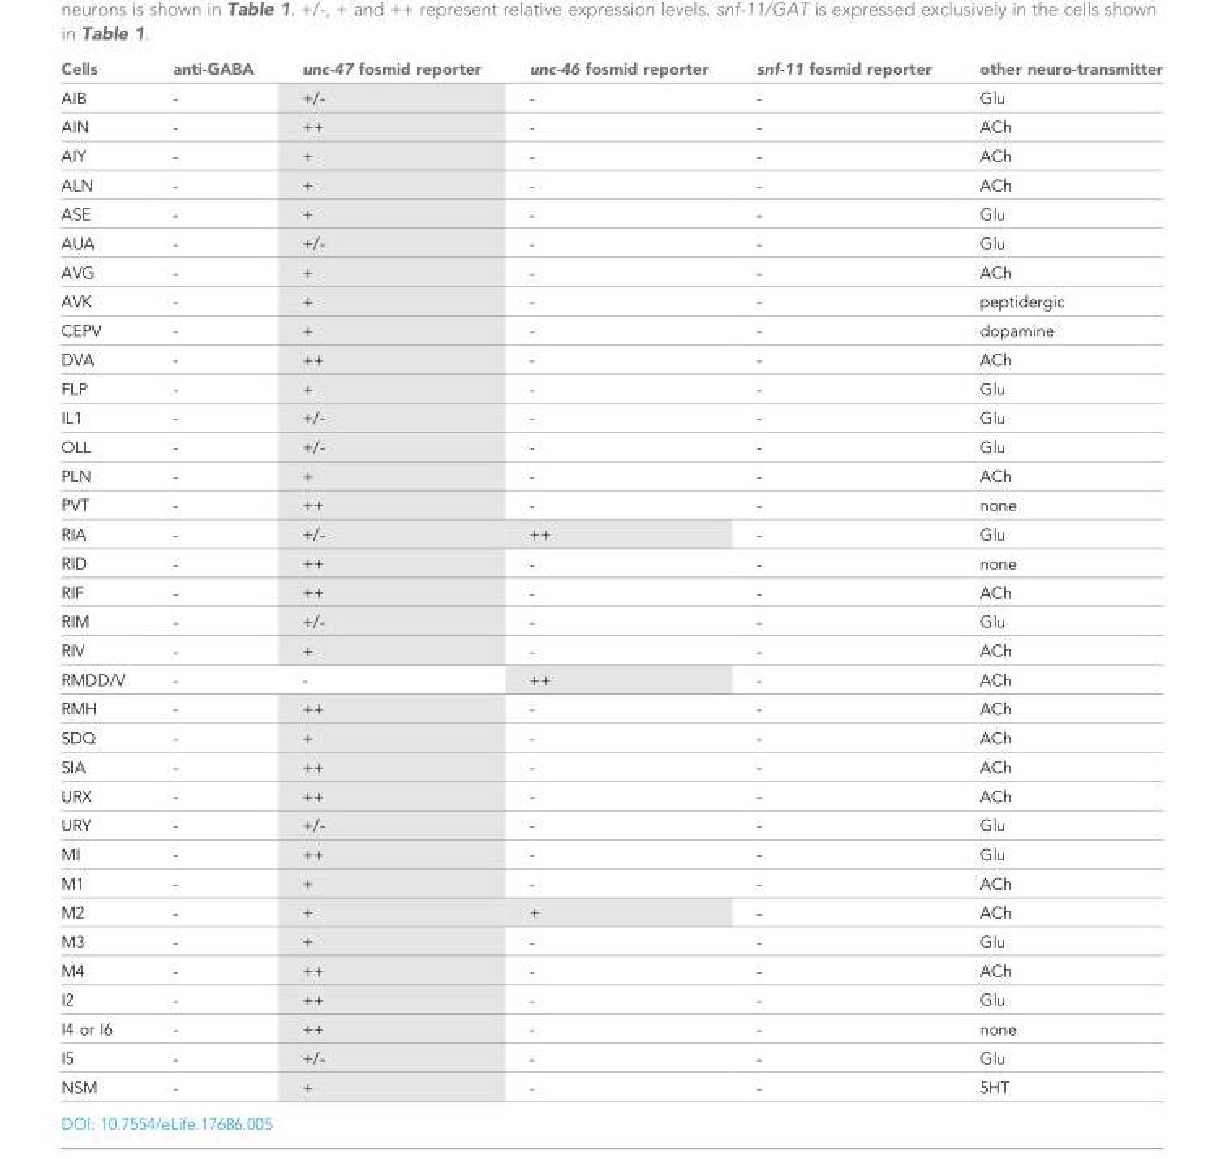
<table><thead><tr><td>Cells</td><td>anti-GABA</td><td>unc-47 fosmid reporter</td><td>unc-46 fosmid reporter</td><td>snf-11 fosmid reporter</td><td>other neuro-transmitter</td></tr></thead><tbody><tr><td>AIB</td><td>-</td><td>+/-</td><td>-</td><td>-</td><td>Glu</td></tr><tr><td>AIN</td><td>-</td><td>++</td><td>-</td><td>-</td><td>ACh</td></tr><tr><td>AIY</td><td>-</td><td>+</td><td>-</td><td>-</td><td>ACh</td></tr><tr><td>ALN</td><td>-</td><td>+</td><td>-</td><td>-</td><td>ACh</td></tr><tr><td>ASE</td><td>-</td><td>+</td><td>-</td><td>-</td><td>Glu</td></tr><tr><td>AUA</td><td>-</td><td>+/-</td><td>-</td><td>-</td><td>Glu</td></tr><tr><td>AVG</td><td>-</td><td>+</td><td>-</td><td>-</td><td>ACh</td></tr><tr><td>AVK</td><td>-</td><td>+</td><td>-</td><td>-</td><td>peptidergic</td></tr><tr><td>CEPV</td><td>-</td><td>+</td><td>-</td><td>-</td><td>dopamine</td></tr><tr><td>DVA</td><td>-</td><td>++</td><td>-</td><td>-</td><td>ACh</td></tr><tr><td>FLP</td><td>-</td><td>+</td><td>-</td><td>-</td><td>Glu</td></tr><tr><td>IL1</td><td>-</td><td>+/-</td><td>-</td><td>-</td><td>Glu</td></tr><tr><td>OLL</td><td>-</td><td>+/-</td><td>-</td><td>-</td><td>Glu</td></tr><tr><td>PLN</td><td>-</td><td>+</td><td>-</td><td>-</td><td>ACh</td></tr><tr><td>PVT</td><td>-</td><td>++</td><td>-</td><td>-</td><td>none</td></tr><tr><td>RIA</td><td>-</td><td>+/-</td><td>++</td><td>-</td><td>Glu</td></tr><tr><td>RID</td><td>-</td><td>++</td><td>-</td><td>-</td><td>none</td></tr><tr><td>RIF</td><td>-</td><td>++</td><td>-</td><td>-</td><td>ACh</td></tr><tr><td>RIM</td><td>-</td><td>+/-</td><td>-</td><td>-</td><td>Glu</td></tr><tr><td>RIV</td><td>-</td><td>+</td><td>-</td><td>-</td><td>ACh</td></tr><tr><td>RMDD/V</td><td>-</td><td>-</td><td>++</td><td>-</td><td>ACh</td></tr><tr><td>RMH</td><td>-</td><td>++</td><td>-</td><td>-</td><td>ACh</td></tr><tr><td>SDQ</td><td>-</td><td>+</td><td>-</td><td>-</td><td>ACh</td></tr><tr><td>SIA</td><td>-</td><td>++</td><td>-</td><td>-</td><td>ACh</td></tr><tr><td>URX</td><td>-</td><td>++</td><td>-</td><td>-</td><td>ACh</td></tr><tr><td>URY</td><td>-</td><td>+/-</td><td>-</td><td>-</td><td>Glu</td></tr><tr><td>MI</td><td>-</td><td>++</td><td>-</td><td>-</td><td>Glu</td></tr><tr><td>M1</td><td>-</td><td>+</td><td>-</td><td>-</td><td>ACh</td></tr><tr><td>M2</td><td>-</td><td>+</td><td>+</td><td>-</td><td>ACh</td></tr><tr><td>M3</td><td>-</td><td>+</td><td>-</td><td>-</td><td>Glu</td></tr><tr><td>M4</td><td>-</td><td>++</td><td>-</td><td>-</td><td>ACh</td></tr><tr><td>I2</td><td>-</td><td>++</td><td>-</td><td>-</td><td>Glu</td></tr><tr><td>I4 or I6</td><td>-</td><td>++</td><td>-</td><td>-</td><td>none</td></tr><tr><td>I5</td><td>-</td><td>+/-</td><td>-</td><td>-</td><td>Glu</td></tr><tr><td>NSM</td><td>-</td><td>+</td><td>-</td><td>-</td><td>5HT</td></tr></tbody></table>